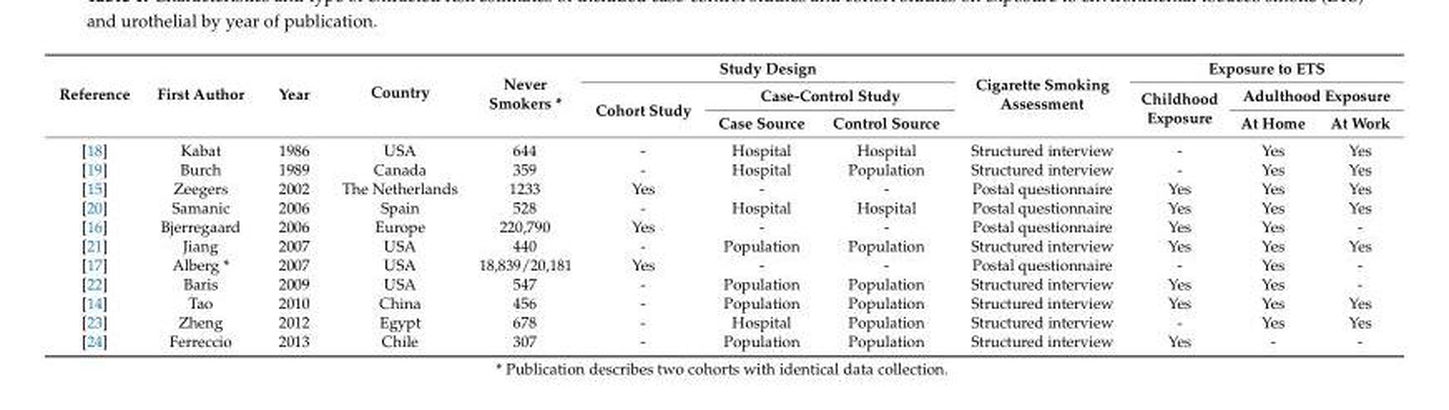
<table><thead><tr><td rowspan="3">Reference</td><td rowspan="3">First Author</td><td rowspan="3">Year</td><td rowspan="3">Country</td><td rowspan="3">Never Smokers *</td><td colspan="3">Study Design</td><td rowspan="3">Cigarette Smoking Assessment</td><td colspan="3">Exposure to ETS</td></tr><tr><td rowspan="2">Cohort Study</td><td colspan="2">Case-Control Study</td><td rowspan="2">Childhood Exposure</td><td colspan="2">Adulthood Exposure</td></tr><tr><td>Case Source</td><td>Control Source</td><td>At Home</td><td>At Work</td></tr></thead><tbody><tr><td>[18]</td><td>Kabat</td><td>1986</td><td>USA</td><td>644</td><td>-</td><td>Hospital</td><td>Hospital</td><td>Structured interview</td><td>-</td><td>Yes</td><td>Yes</td></tr><tr><td>[19]</td><td>Burch</td><td>1989</td><td>Canada</td><td>359</td><td>-</td><td>Hospital</td><td>Population</td><td>Structured interview</td><td>-</td><td>Yes</td><td>Yes</td></tr><tr><td>[15]</td><td>Zeegers</td><td>2002</td><td>The Netherlands</td><td>1233</td><td>Yes</td><td>-</td><td>-</td><td>Postal questionnaire</td><td>Yes</td><td>Yes</td><td>Yes</td></tr><tr><td>[20]</td><td>Samanic</td><td>2006</td><td>Spain</td><td>528</td><td>-</td><td>Hospital</td><td>Hospital</td><td>Postal questionnaire</td><td>Yes</td><td>Yes</td><td>Yes</td></tr><tr><td>[16]</td><td>Bjerregaard</td><td>2006</td><td>Europe</td><td>220,790</td><td>Yes</td><td>-</td><td>-</td><td>Postal questionnaire</td><td>Yes</td><td>Yes</td><td>-</td></tr><tr><td>[21]</td><td>Jiang</td><td>2007</td><td>USA</td><td>440</td><td>-</td><td>Population</td><td>Population</td><td>Structured interview</td><td>Yes</td><td>Yes</td><td>Yes</td></tr><tr><td>[17]</td><td>Alberg *</td><td>2007</td><td>USA</td><td>18,839/20,181</td><td>Yes</td><td>-</td><td>-</td><td>Postal questionnaire</td><td>-</td><td>Yes</td><td>-</td></tr><tr><td>[22]</td><td>Baris</td><td>2009</td><td>USA</td><td>547</td><td>-</td><td>Population</td><td>Population</td><td>Structured interview</td><td>Yes</td><td>Yes</td><td>-</td></tr><tr><td>[14]</td><td>Tao</td><td>2010</td><td>China</td><td>456</td><td>-</td><td>Population</td><td>Population</td><td>Structured interview</td><td>Yes</td><td>Yes</td><td>Yes</td></tr><tr><td>[23]</td><td>Zheng</td><td>2012</td><td>Egypt</td><td>678</td><td>-</td><td>Hospital</td><td>Population</td><td>Structured interview</td><td>-</td><td>Yes</td><td>Yes</td></tr><tr><td>[24]</td><td>Ferreccio</td><td>2013</td><td>Chile</td><td>307</td><td>-</td><td>Population</td><td>Population</td><td>Structured interview</td><td>Yes</td><td>-</td><td>-</td></tr></tbody></table>